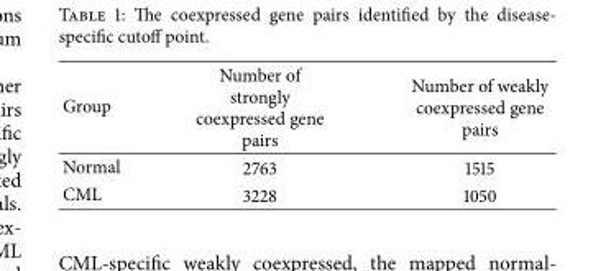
<table><tbody><tr><td>Group</td><td>Number of strongly coexpressed gene pairs</td><td>Number of weakly coexpressed gene pairs</td></tr><tr><td>Normal</td><td>2763</td><td>1515</td></tr><tr><td>CML</td><td>3228</td><td>1050</td></tr></tbody></table>